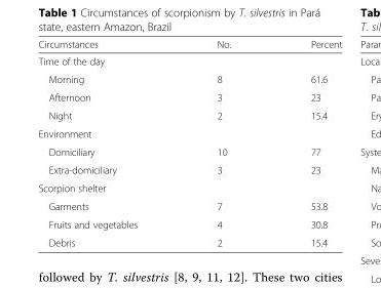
<table><thead><tr><td>Circumstances</td><td>No.</td><td>Percent</td></tr></thead><tbody><tr><td colspan="3">Time of the day</td></tr><tr><td>Morning</td><td>8</td><td>61.6</td></tr><tr><td>Afternoon</td><td>3</td><td>23</td></tr><tr><td>Night</td><td>2</td><td>15.4</td></tr><tr><td colspan="3">Environment</td></tr><tr><td>Domiciliary</td><td>10</td><td>77</td></tr><tr><td>Extra-domiciliary</td><td>3</td><td>23</td></tr><tr><td colspan="3">Scorpion shelter</td></tr><tr><td>Garments</td><td>7</td><td>53.8</td></tr><tr><td>Fruits and vegetables</td><td>4</td><td>30.8</td></tr><tr><td>Debris</td><td>2</td><td>15.4</td></tr></tbody></table>